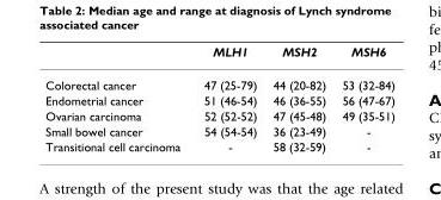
<table><thead><tr><td></td><td>MLH1</td><td>MSH2</td><td>MSH6</td></tr></thead><tbody><tr><td>Colorectal cancer</td><td>47 (25-79)</td><td>44 (20-82)</td><td>53 (32-84)</td></tr><tr><td>Endometrial cancer</td><td>51 (46-54)</td><td>46 (36-55)</td><td>56 (47-67)</td></tr><tr><td>Ovarian carcinoma</td><td>52 (52-52)</td><td>47 (45-48)</td><td>49 (35-51)</td></tr><tr><td>Small bowel cancer</td><td>54 (54-54)</td><td>36 (23-49)</td><td>-</td></tr><tr><td>Transitional cell carcinoma</td><td>-</td><td>58 (32-59)</td><td>-</td></tr></tbody></table>